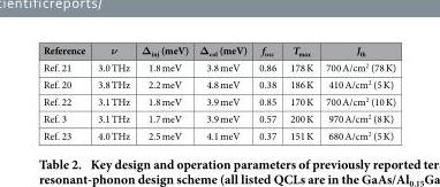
<table><thead><tr><td>Reference</td><td>ν</td><td>Δ<sub>inj</sub> (meV)</td><td>Δ<sub>col</sub> (meV)</td><td>f<sub>osc</sub></td><td>T<sub>max</sub></td><td>J<sub>th</sub></td></tr></thead><tbody><tr><td>Ref. 21</td><td>3.0 THz</td><td>1.8 meV</td><td>3.8 meV</td><td>0.86</td><td>178 K</td><td>700 A/cm<sup>2</sup> (78 K)</td></tr><tr><td>Ref. 20</td><td>3.8 THz</td><td>2.2 meV</td><td>4.8 meV</td><td>0.38</td><td>186 K</td><td>410 A/cm<sup>2</sup> (5 K)</td></tr><tr><td>Ref. 22</td><td>3.1 THz</td><td>1.8 meV</td><td>3.9 meV</td><td>0.85</td><td>170 K</td><td>700 A/cm<sup>2</sup> (10 K)</td></tr><tr><td>Ref. 3</td><td>3.1 THz</td><td>1.7 meV</td><td>3.9 meV</td><td>0.57</td><td>200 K</td><td>970 A/cm<sup>2</sup> (8 K)</td></tr><tr><td>Ref. 23</td><td>4.0 THz</td><td>2.5 meV</td><td>4.1 meV</td><td>0.37</td><td>151 K</td><td>680 A/cm<sup>2</sup> (5 K)</td></tr></tbody></table>